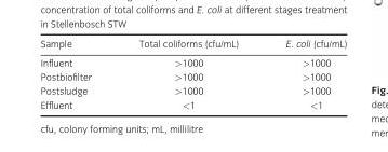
<table><thead><tr><td>Sample</td><td>Total coliforms (cfu/mL)</td><td>E. coli (cfu/mL)</td></tr></thead><tbody><tr><td>Influent</td><td>&gt;1000</td><td>&gt;1000</td></tr><tr><td>Postbiofilter</td><td>&gt;1000</td><td>&gt;1000</td></tr><tr><td>Postsludge</td><td>&gt;1000</td><td>&gt;1000</td></tr><tr><td>Effluent</td><td>&lt;1</td><td>&lt;1</td></tr></tbody></table>